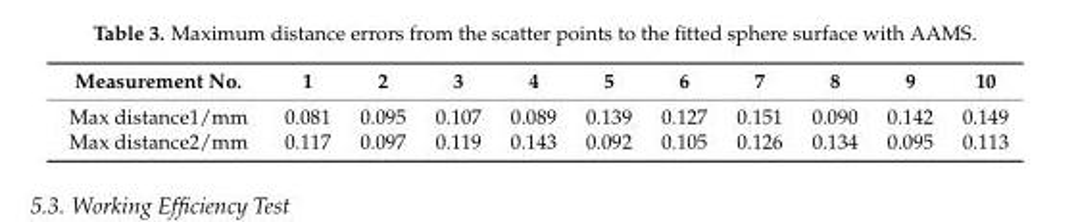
<table><thead><tr><td>Measurement No.</td><td>1</td><td>2</td><td>3</td><td>4</td><td>5</td><td>6</td><td>7</td><td>8</td><td>9</td><td>10</td></tr></thead><tbody><tr><td>Max distance1/mm</td><td>0.081</td><td>0.095</td><td>0.107</td><td>0.089</td><td>0.139</td><td>0.127</td><td>0.151</td><td>0.090</td><td>0.142</td><td>0.149</td></tr><tr><td>Max distance2/mm</td><td>0.117</td><td>0.097</td><td>0.119</td><td>0.143</td><td>0.092</td><td>0.105</td><td>0.126</td><td>0.134</td><td>0.095</td><td>0.113</td></tr></tbody></table>